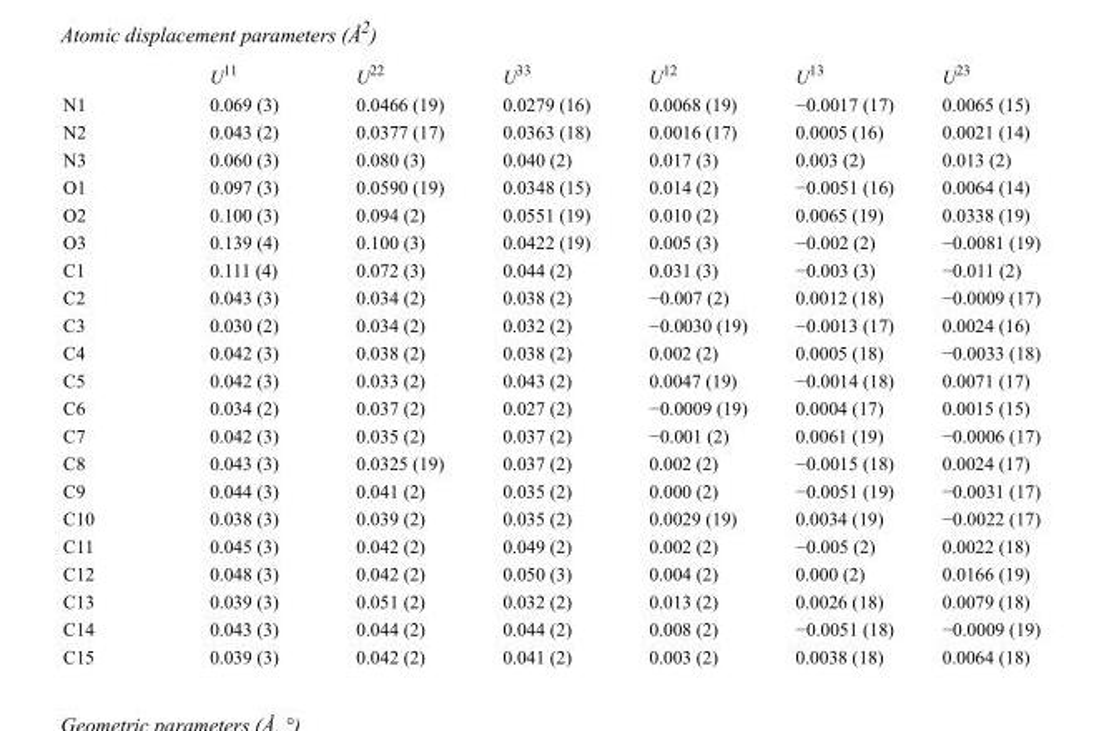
<table><thead><tr><td></td><td>U<sup>11</sup></td><td>U<sup>22</sup></td><td>U<sup>33</sup></td><td>U<sup>12</sup></td><td>U<sup>13</sup></td><td>U<sup>23</sup></td></tr></thead><tbody><tr><td>N1</td><td>0.069 (3)</td><td>0.0466 (19)</td><td>0.0279 (16)</td><td>0.0068 (19)</td><td>−0.0017 (17)</td><td>0.0065 (15)</td></tr><tr><td>N2</td><td>0.043 (2)</td><td>0.0377 (17)</td><td>0.0363 (18)</td><td>0.0016 (17)</td><td>0.0005 (16)</td><td>0.0021 (14)</td></tr><tr><td>N3</td><td>0.060 (3)</td><td>0.080 (3)</td><td>0.040 (2)</td><td>0.017 (3)</td><td>0.003 (2)</td><td>0.013 (2)</td></tr><tr><td>O1</td><td>0.097 (3)</td><td>0.0590 (19)</td><td>0.0348 (15)</td><td>0.014 (2)</td><td>−0.0051 (16)</td><td>0.0064 (14)</td></tr><tr><td>O2</td><td>0.100 (3)</td><td>0.094 (2)</td><td>0.0551 (19)</td><td>0.010 (2)</td><td>0.0065 (19)</td><td>0.0338 (19)</td></tr><tr><td>O3</td><td>0.139 (4)</td><td>0.100 (3)</td><td>0.0422 (19)</td><td>0.005 (3)</td><td>−0.002 (2)</td><td>−0.0081 (19)</td></tr><tr><td>C1</td><td>0.111 (4)</td><td>0.072 (3)</td><td>0.044 (2)</td><td>0.031 (3)</td><td>−0.003 (3)</td><td>−0.011 (2)</td></tr><tr><td>C2</td><td>0.043 (3)</td><td>0.034 (2)</td><td>0.038 (2)</td><td>−0.007 (2)</td><td>0.0012 (18)</td><td>−0.0009 (17)</td></tr><tr><td>C3</td><td>0.030 (2)</td><td>0.034 (2)</td><td>0.032 (2)</td><td>−0.0030 (19)</td><td>−0.0013 (17)</td><td>0.0024 (16)</td></tr><tr><td>C4</td><td>0.042 (3)</td><td>0.038 (2)</td><td>0.038 (2)</td><td>0.002 (2)</td><td>0.0005 (18)</td><td>−0.0033 (18)</td></tr><tr><td>C5</td><td>0.042 (3)</td><td>0.033 (2)</td><td>0.043 (2)</td><td>0.0047 (19)</td><td>−0.0014 (18)</td><td>0.0071 (17)</td></tr><tr><td>C6</td><td>0.034 (2)</td><td>0.037 (2)</td><td>0.027 (2)</td><td>−0.0009 (19)</td><td>0.0004 (17)</td><td>0.0015 (15)</td></tr><tr><td>C7</td><td>0.042 (3)</td><td>0.035 (2)</td><td>0.037 (2)</td><td>−0.001 (2)</td><td>0.0061 (19)</td><td>−0.0006 (17)</td></tr><tr><td>C8</td><td>0.043 (3)</td><td>0.0325 (19)</td><td>0.037 (2)</td><td>0.002 (2)</td><td>−0.0015 (18)</td><td>0.0024 (17)</td></tr><tr><td>C9</td><td>0.044 (3)</td><td>0.041 (2)</td><td>0.035 (2)</td><td>0.000 (2)</td><td>−0.0051 (19)</td><td>−0.0031 (17)</td></tr><tr><td>C10</td><td>0.038 (3)</td><td>0.039 (2)</td><td>0.035 (2)</td><td>0.0029 (19)</td><td>0.0034 (19)</td><td>−0.0022 (17)</td></tr><tr><td>C11</td><td>0.045 (3)</td><td>0.042 (2)</td><td>0.049 (2)</td><td>0.002 (2)</td><td>−0.005 (2)</td><td>0.0022 (18)</td></tr><tr><td>C12</td><td>0.048 (3)</td><td>0.042 (2)</td><td>0.050 (3)</td><td>0.004 (2)</td><td>0.000 (2)</td><td>0.0166 (19)</td></tr><tr><td>C13</td><td>0.039 (3)</td><td>0.051 (2)</td><td>0.032 (2)</td><td>0.013 (2)</td><td>0.0026 (18)</td><td>0.0079 (18)</td></tr><tr><td>C14</td><td>0.043 (3)</td><td>0.044 (2)</td><td>0.044 (2)</td><td>0.008 (2)</td><td>−0.0051 (18)</td><td>−0.0009 (19)</td></tr><tr><td>C15</td><td>0.039 (3)</td><td>0.042 (2)</td><td>0.041 (2)</td><td>0.003 (2)</td><td>0.0038 (18)</td><td>0.0064 (18)</td></tr></tbody></table>